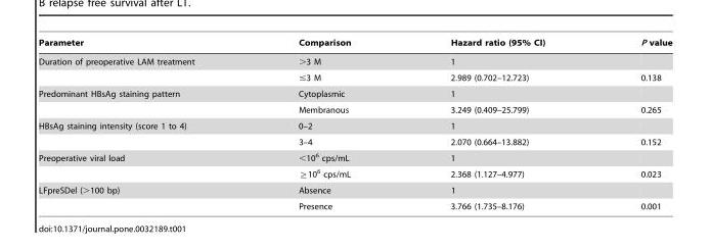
<table><thead><tr><td>Parameter</td><td>Comparison</td><td>Hazard ratio (95% CI)</td><td>P value</td></tr></thead><tbody><tr><td rowspan="2">Duration of preoperative LAM treatment</td><td>&gt;3 M</td><td>1</td><td></td></tr><tr><td>≤3 M</td><td>2.989 (0.702–12.723)</td><td>0.138</td></tr><tr><td rowspan="2">Predominant HBsAg staining pattern</td><td>Cytoplasmic</td><td>1</td><td></td></tr><tr><td>Membranous</td><td>3.249 (0.409–25.799)</td><td>0.265</td></tr><tr><td rowspan="2">HBsAg staining intensity (score 1 to 4)</td><td>0–2</td><td>1</td><td></td></tr><tr><td>3–4</td><td>2.070 (0.664–13.882)</td><td>0.152</td></tr><tr><td rowspan="2">Preoperative viral load</td><td>&lt;10<sup>6</sup> cps/mL</td><td>1</td><td></td></tr><tr><td>≧10<sup>6</sup> cps/mL</td><td>2.368 (1.127–4.977)</td><td>0.023</td></tr><tr><td rowspan="2">LFpreSDel (&gt;100 bp)</td><td>Absence</td><td>1</td><td></td></tr><tr><td>Presence</td><td>3.766 (1.735–8.176)</td><td>0.001</td></tr></tbody></table>